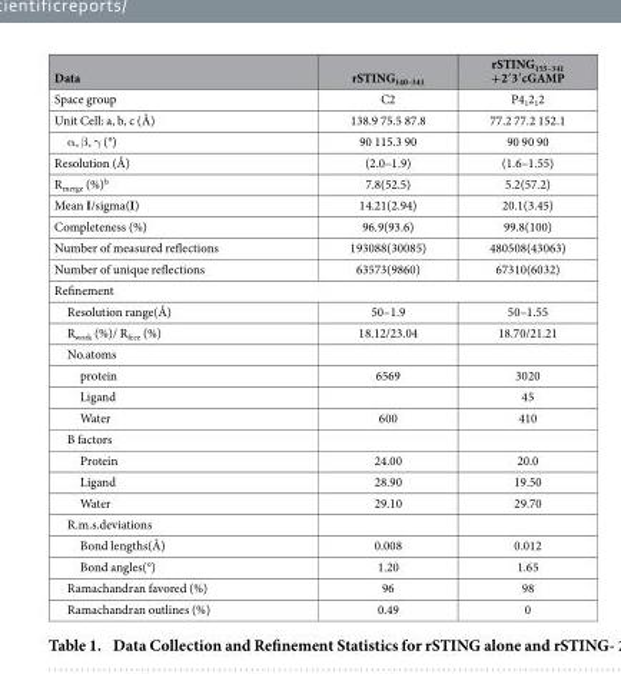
<table><thead><tr><td>Data</td><td>rSTING<sub>140–341</sub></td><td>rSTING<sub>155–341</sub> +2′3′cGAMP</td></tr></thead><tbody><tr><td>Space group</td><td>C2</td><td>P4<sub>1</sub>2<sub>1</sub>2</td></tr><tr><td>Unit Cell: a, b, c (Å)</td><td>138.9 75.5 87.8</td><td>77.2 77.2 152.1</td></tr><tr><td>α , β , γ (°)</td><td>90 115.3 90</td><td>90 90 90</td></tr><tr><td>Resolution (Å)</td><td>(2.0–1.9)</td><td>(1.6–1.55)</td></tr><tr><td>R<sub>merge</sub> (%)<sup>b</sup></td><td>7.8(52.5)</td><td>5.2(57.2)</td></tr><tr><td>Mean I/sigma(I)</td><td>14.21(2.94)</td><td>20.1(3.45)</td></tr><tr><td>Completeness (%)</td><td>96.9(93.6)</td><td>99.8(100)</td></tr><tr><td>Number of measured reflections</td><td>193088(30085)</td><td>480508(43063)</td></tr><tr><td>Number of unique reflections</td><td>63573(9860)</td><td>67310(6032)</td></tr><tr><td colspan="3">Refinement</td></tr><tr><td>Resolution range(Å)</td><td>50–1.9</td><td>50–1.55</td></tr><tr><td>R<sub>work</sub> (%)/ R<sub>free</sub> (%)</td><td>18.12/23.04</td><td>18.70/21.21</td></tr><tr><td colspan="3">No.atoms</td></tr><tr><td>protein</td><td>6569</td><td>3020</td></tr><tr><td>Ligand</td><td></td><td>45</td></tr><tr><td>Water</td><td>600</td><td>410</td></tr><tr><td colspan="3">B factors</td></tr><tr><td>Protein</td><td>24.00</td><td>20.0</td></tr><tr><td>Ligand</td><td>28.90</td><td>19.50</td></tr><tr><td>Water</td><td>29.10</td><td>29.70</td></tr><tr><td colspan="3">R.m.s.deviations</td></tr><tr><td>Bond lengths(Å)</td><td>0.008</td><td>0.012</td></tr><tr><td>Bond angles(°)</td><td>1.20</td><td>1.65</td></tr><tr><td>Ramachandran favored (%)</td><td>96</td><td>98</td></tr><tr><td>Ramachandran outlines (%)</td><td>0.49</td><td>0</td></tr></tbody></table>